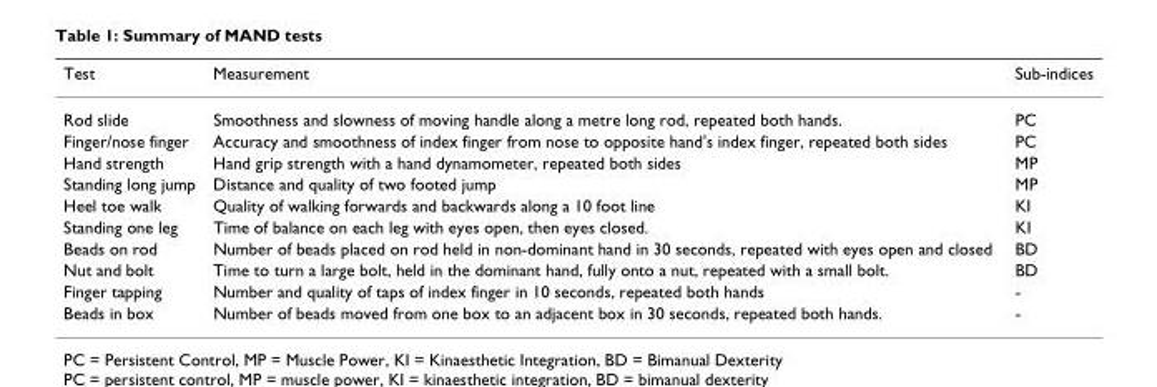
<table><thead><tr><td>Test</td><td>Measurement</td><td>Sub-indices</td></tr></thead><tbody><tr><td>Rod slide</td><td>Smoothness and slowness of moving handle along a metre long rod, repeated both hands.</td><td>PC</td></tr><tr><td>Finger/nose finger</td><td>Accuracy and smoothness of index finger from nose to opposite hand&#x27;s index finger, repeated both sides</td><td>PC</td></tr><tr><td>Hand strength</td><td>Hand grip strength with a hand dynamometer, repeated both sides</td><td>MP</td></tr><tr><td>Standing long jump</td><td>Distance and quality of two footed jump</td><td>MP</td></tr><tr><td>Heel toe walk</td><td>Quality of walking forwards and backwards along a 10 foot line</td><td>KI</td></tr><tr><td>Standing one leg</td><td>Time of balance on each leg with eyes open, then eyes closed.</td><td>KI</td></tr><tr><td>Beads on rod</td><td>Number of beads placed on rod held in non-dominant hand in 30 seconds, repeated with eyes open and closed</td><td>BD</td></tr><tr><td>Nut and bolt</td><td>Time to turn a large bolt, held in the dominant hand, fully onto a nut, repeated with a small bolt.</td><td>BD</td></tr><tr><td>Finger tapping</td><td>Number and quality of taps of index finger in 10 seconds, repeated both hands</td><td>-</td></tr><tr><td>Beads in box</td><td>Number of beads moved from one box to an adjacent box in 30 seconds, repeated both hands.</td><td>-</td></tr></tbody></table>